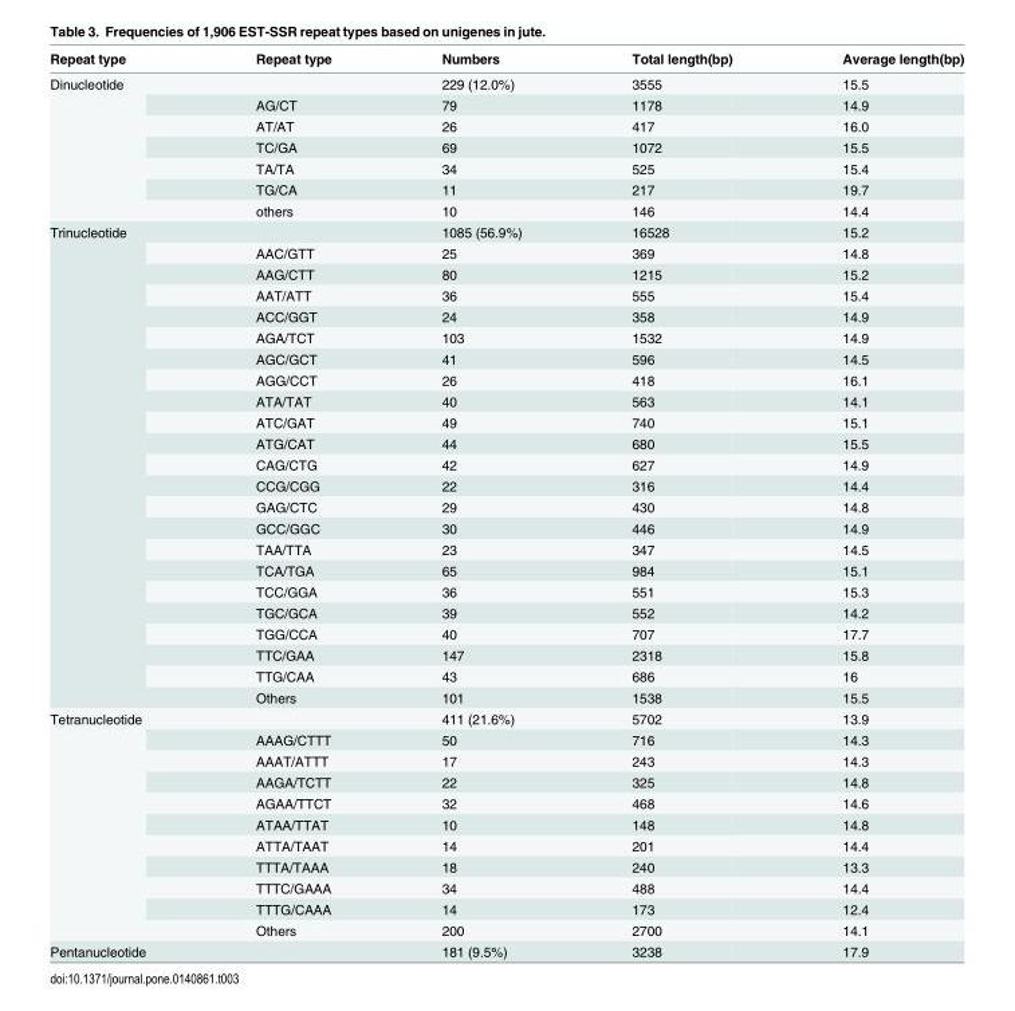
<table><thead><tr><td>Repeat type</td><td>Repeat type</td><td>Numbers</td><td>Total length(bp)</td><td>Average length(bp)</td></tr></thead><tbody><tr><td rowspan="7">Dinucleotide</td><td></td><td>229 (12.0%)</td><td>3555</td><td>15.5</td></tr><tr><td>AG/CT</td><td>79</td><td>1178</td><td>14.9</td></tr><tr><td>AT/AT</td><td>26</td><td>417</td><td>16.0</td></tr><tr><td>TC/GA</td><td>69</td><td>1072</td><td>15.5</td></tr><tr><td>TA/TA</td><td>34</td><td>525</td><td>15.4</td></tr><tr><td>TG/CA</td><td>11</td><td>217</td><td>19.7</td></tr><tr><td>others</td><td>10</td><td>146</td><td>14.4</td></tr><tr><td rowspan="23">Trinucleotide</td><td></td><td>1085 (56.9%)</td><td>16528</td><td>15.2</td></tr><tr><td>AAC/GTT</td><td>25</td><td>369</td><td>14.8</td></tr><tr><td>AAG/CTT</td><td>80</td><td>1215</td><td>15.2</td></tr><tr><td>AAT/ATT</td><td>36</td><td>555</td><td>15.4</td></tr><tr><td>ACC/GGT</td><td>24</td><td>358</td><td>14.9</td></tr><tr><td>AGA/TCT</td><td>103</td><td>1532</td><td>14.9</td></tr><tr><td>AGC/GCT</td><td>41</td><td>596</td><td>14.5</td></tr><tr><td>AGG/CCT</td><td>26</td><td>418</td><td>16.1</td></tr><tr><td>ATA/TAT</td><td>40</td><td>563</td><td>14.1</td></tr><tr><td>ATC/GAT</td><td>49</td><td>740</td><td>15.1</td></tr><tr><td>ATG/CAT</td><td>44</td><td>680</td><td>15.5</td></tr><tr><td>CAG/CTG</td><td>42</td><td>627</td><td>14.9</td></tr><tr><td>CCG/CGG</td><td>22</td><td>316</td><td>14.4</td></tr><tr><td>GAG/CTC</td><td>29</td><td>430</td><td>14.8</td></tr><tr><td>GCC/GGC</td><td>30</td><td>446</td><td>14.9</td></tr><tr><td>TAA/TTA</td><td>23</td><td>347</td><td>14.5</td></tr><tr><td>TCA/TGA</td><td>65</td><td>984</td><td>15.1</td></tr><tr><td>TCC/GGA</td><td>36</td><td>551</td><td>15.3</td></tr><tr><td>TGC/GCA</td><td>39</td><td>552</td><td>14.2</td></tr><tr><td>TGG/CCA</td><td>40</td><td>707</td><td>17.7</td></tr><tr><td>TTC/GAA</td><td>147</td><td>2318</td><td>15.8</td></tr><tr><td>TTG/CAA</td><td>43</td><td>686</td><td>16</td></tr><tr><td>Others</td><td>101</td><td>1538</td><td>15.5</td></tr><tr><td rowspan="11">Tetranucleotide</td><td></td><td>411 (21.6%)</td><td>5702</td><td>13.9</td></tr><tr><td>AAAG/CTTT</td><td>50</td><td>716</td><td>14.3</td></tr><tr><td>AAAT/ATTT</td><td>17</td><td>243</td><td>14.3</td></tr><tr><td>AAGA/TCTT</td><td>22</td><td>325</td><td>14.8</td></tr><tr><td>AGAA/TTCT</td><td>32</td><td>468</td><td>14.6</td></tr><tr><td>ATAA/TTAT</td><td>10</td><td>148</td><td>14.8</td></tr><tr><td>ATTA/TAAT</td><td>14</td><td>201</td><td>14.4</td></tr><tr><td>TTTA/TAAA</td><td>18</td><td>240</td><td>13.3</td></tr><tr><td>TTTC/GAAA</td><td>34</td><td>488</td><td>14.4</td></tr><tr><td>TTTG/CAAA</td><td>14</td><td>173</td><td>12.4</td></tr><tr><td>Others</td><td>200</td><td>2700</td><td>14.1</td></tr><tr><td>Pentanucleotide</td><td></td><td>181 (9.5%)</td><td>3238</td><td>17.9</td></tr></tbody></table>